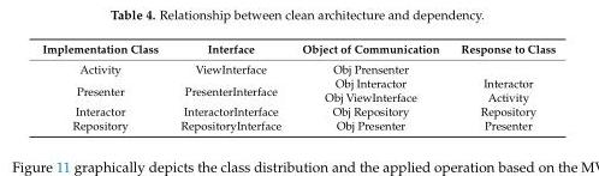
<table><thead><tr><td>Implementation Class</td><td>Interface</td><td>Object of Communication</td><td>Response to Class</td></tr></thead><tbody><tr><td>Activity</td><td>ViewInterface</td><td>Obj Prensenter</td><td></td></tr><tr><td rowspan="2">Presenter</td><td rowspan="2">PresenterInterface</td><td>Obj Interactor</td><td>Interactor</td></tr><tr><td>Obj ViewInterface</td><td>Activity</td></tr><tr><td>Interactor</td><td>InteractorInterface</td><td>Obj Repository</td><td>Repository</td></tr><tr><td>Repository</td><td>RepositoryInterface</td><td>Obj Presenter</td><td>Presenter</td></tr></tbody></table>